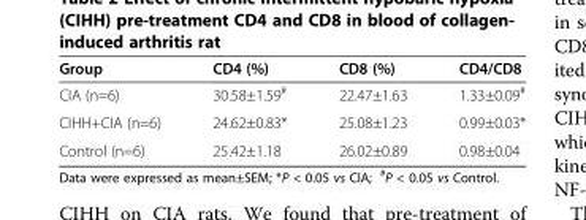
<table><thead><tr><td>Group</td><td>CD4 (%)</td><td>CD8 (%)</td><td>CD4/CD8</td></tr></thead><tbody><tr><td>CIA (n=6)</td><td>30.58±1.59<sup>#</sup></td><td>22.47±1.63</td><td>1.33±0.09<sup>#</sup></td></tr><tr><td>CIHH+CIA (n=6)</td><td>24.62±0.83*</td><td>25.08±1.23</td><td>0.99±0.03*</td></tr><tr><td>Control (n=6)</td><td>25.42±1.18</td><td>26.02±0.89</td><td>0.98±0.04</td></tr></tbody></table>